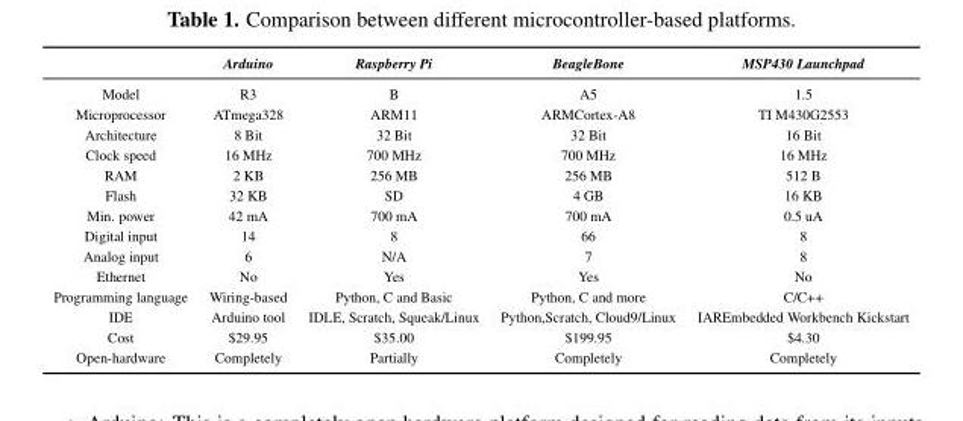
<table><thead><tr><td></td><td>Arduino</td><td>Raspberry Pi</td><td>BeagleBone</td><td>MSP430 Launchpad</td></tr></thead><tbody><tr><td>Model</td><td>R3</td><td>B</td><td>A5</td><td>1.5</td></tr><tr><td>Microprocessor</td><td>ATmega328</td><td>ARM11</td><td>ARMCortex-A8</td><td>TI M430G2553</td></tr><tr><td>Architecture</td><td>8 Bit</td><td>32 Bit</td><td>32 Bit</td><td>16 Bit</td></tr><tr><td>Clock speed</td><td>16 MHz</td><td>700 MHz</td><td>700 MHz</td><td>16 MHz</td></tr><tr><td>RAM</td><td>2 KB</td><td>256 MB</td><td>256 MB</td><td>512 B</td></tr><tr><td>Flash</td><td>32 KB</td><td>SD</td><td>4 GB</td><td>16 KB</td></tr><tr><td>Min. power</td><td>42 mA</td><td>700 mA</td><td>700 mA</td><td>0.5 uA</td></tr><tr><td>Digital input</td><td>14</td><td>8</td><td>66</td><td>8</td></tr><tr><td>Analog input</td><td>6</td><td>N/A</td><td>7</td><td>8</td></tr><tr><td>Ethernet</td><td>No</td><td>Yes</td><td>Yes</td><td>No</td></tr><tr><td>Programming language</td><td>Wiring-based</td><td>Python, C and Basic</td><td>Python, C and more</td><td>C/C++</td></tr><tr><td>IDE</td><td>Arduino tool</td><td>IDLE, Scratch, Squeak/Linux</td><td>Python,Scratch, Cloud9/Linux</td><td>IAREmbedded Workbench Kickstart</td></tr><tr><td>Cost</td><td>$29.95</td><td>$35.00</td><td>$199.95</td><td>$4.30</td></tr><tr><td>Open-hardware</td><td>Completely</td><td>Partially</td><td>Completely</td><td>Completely</td></tr></tbody></table>